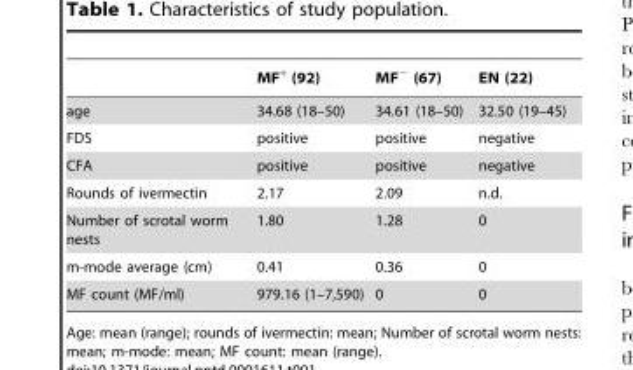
<table><thead><tr><td></td><td>MF<sup>+</sup> (92)</td><td>MF<sup>−</sup> (67)</td><td>EN (22)</td></tr></thead><tbody><tr><td>age</td><td>34.68 (18–50)</td><td>34.61 (18–50)</td><td>32.50 (19–45)</td></tr><tr><td>FDS</td><td>positive</td><td>positive</td><td>negative</td></tr><tr><td>CFA</td><td>positive</td><td>positive</td><td>negative</td></tr><tr><td>Rounds of ivermectin</td><td>2.17</td><td>2.09</td><td>n.d.</td></tr><tr><td>Number of scrotal worm nests</td><td>1.80</td><td>1.28</td><td>0</td></tr><tr><td>m-mode average (cm)</td><td>0.41</td><td>0.36</td><td>0</td></tr><tr><td>MF count (MF/ml)</td><td>979.16 (1–7,590)</td><td>0</td><td>0</td></tr></tbody></table>